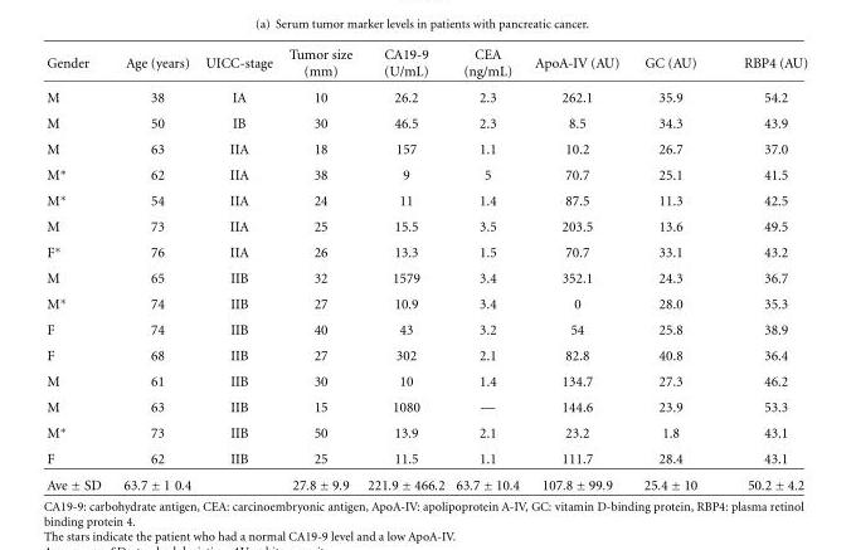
<table><thead><tr><td>Gender</td><td>Age (years)</td><td>UICC-stage</td><td>Tumor size (mm)</td><td>CA19-9 (U/mL)</td><td>CEA (ng/mL)</td><td>ApoA-IV (AU)</td><td>GC (AU)</td><td>RBP4 (AU)</td></tr></thead><tbody><tr><td>M</td><td>38</td><td>IA</td><td>10</td><td>26.2</td><td>2.3</td><td>262.1</td><td>35.9</td><td>54.2</td></tr><tr><td>M</td><td>50</td><td>IB</td><td>30</td><td>46.5</td><td>2.3</td><td>8.5</td><td>34.3</td><td>43.9</td></tr><tr><td>M</td><td>63</td><td>IIA</td><td>18</td><td>157</td><td>1.1</td><td>10.2</td><td>26.7</td><td>37.0</td></tr><tr><td>M∗</td><td>62</td><td>IIA</td><td>38</td><td>9</td><td>5</td><td>70.7</td><td>25.1</td><td>41.5</td></tr><tr><td>M∗</td><td>54</td><td>IIA</td><td>24</td><td>11</td><td>1.4</td><td>87.5</td><td>11.3</td><td>42.5</td></tr><tr><td>M</td><td>73</td><td>IIA</td><td>25</td><td>15.5</td><td>3.5</td><td>203.5</td><td>13.6</td><td>49.5</td></tr><tr><td>F∗</td><td>76</td><td>IIA</td><td>26</td><td>13.3</td><td>1.5</td><td>70.7</td><td>33.1</td><td>43.2</td></tr><tr><td>M</td><td>65</td><td>IIB</td><td>32</td><td>1579</td><td>3.4</td><td>352.1</td><td>24.3</td><td>36.7</td></tr><tr><td>M∗</td><td>74</td><td>IIB</td><td>27</td><td>10.9</td><td>3.4</td><td>0</td><td>28.0</td><td>35.3</td></tr><tr><td>F</td><td>74</td><td>IIB</td><td>40</td><td>43</td><td>3.2</td><td>54</td><td>25.8</td><td>38.9</td></tr><tr><td>F</td><td>68</td><td>IIB</td><td>27</td><td>302</td><td>2.1</td><td>82.8</td><td>40.8</td><td>36.4</td></tr><tr><td>M</td><td>61</td><td>IIB</td><td>30</td><td>10</td><td>1.4</td><td>134.7</td><td>27.3</td><td>46.2</td></tr><tr><td>M</td><td>63</td><td>IIB</td><td>15</td><td>1080</td><td>—</td><td>144.6</td><td>23.9</td><td>53.3</td></tr><tr><td>M∗</td><td>73</td><td>IIB</td><td>50</td><td>13.9</td><td>2.1</td><td>23.2</td><td>1.8</td><td>43.1</td></tr><tr><td>F</td><td>62</td><td>IIB</td><td>25</td><td>11.5</td><td>1.1</td><td>111.7</td><td>28.4</td><td>43.1</td></tr><tr><td>Ave ± SD</td><td>63.7 ± 1 0.4</td><td></td><td>27.8 ± 9.9</td><td>221.9 ± 466.2</td><td>63.7 ± 10.4</td><td>107.8 ± 99.9</td><td>25.4 ± 10</td><td>50.2 ± 4.2</td></tr></tbody></table>